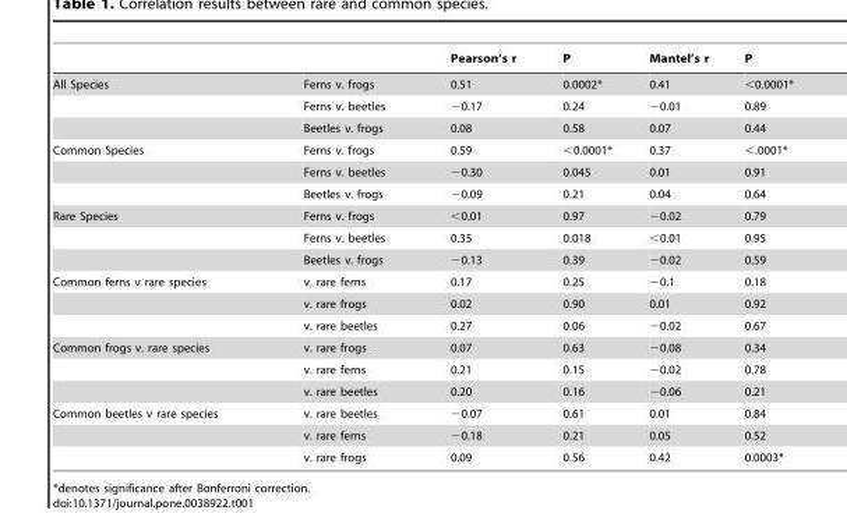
<table><thead><tr><td></td><td></td><td>Pearson’s r</td><td>P</td><td>Mantel’s r</td><td>P</td></tr></thead><tbody><tr><td rowspan="3">All Species</td><td>Ferns v. frogs</td><td>0.51</td><td>0.0002*</td><td>0.41</td><td>&lt;0.0001*</td></tr><tr><td>Ferns v. beetles</td><td>−0.17</td><td>0.24</td><td>−0.01</td><td>0.89</td></tr><tr><td>Beetles v. frogs</td><td>0.08</td><td>0.58</td><td>0.07</td><td>0.44</td></tr><tr><td rowspan="3">Common Species</td><td>Ferns v. frogs</td><td>0.59</td><td>&lt;0.0001*</td><td>0.37</td><td>&lt;.0001*</td></tr><tr><td>Ferns v. beetles</td><td>−0.30</td><td>0.045</td><td>0.01</td><td>0.91</td></tr><tr><td>Beetles v. frogs</td><td>−0.09</td><td>0.21</td><td>0.04</td><td>0.64</td></tr><tr><td rowspan="3">Rare Species</td><td>Ferns v. frogs</td><td>&lt;0.01</td><td>0.97</td><td>−0.02</td><td>0.79</td></tr><tr><td>Ferns v. beetles</td><td>0.35</td><td>0.018</td><td>&lt;0.01</td><td>0.95</td></tr><tr><td>Beetles v. frogs</td><td>−0.13</td><td>0.39</td><td>−0.02</td><td>0.59</td></tr><tr><td rowspan="3">Common ferns v rare species</td><td>v. rare ferns</td><td>0.17</td><td>0.25</td><td>−0.1</td><td>0.18</td></tr><tr><td>v. rare frogs</td><td>0.02</td><td>0.90</td><td>0.01</td><td>0.92</td></tr><tr><td>v. rare beetles</td><td>0.27</td><td>0.06</td><td>−0.02</td><td>0.67</td></tr><tr><td rowspan="3">Common frogs v. rare species</td><td>v. rare frogs</td><td>0.07</td><td>0.63</td><td>−0.08</td><td>0.34</td></tr><tr><td>v. rare ferns</td><td>0.21</td><td>0.15</td><td>−0.02</td><td>0.78</td></tr><tr><td>v. rare beetles</td><td>0.20</td><td>0.16</td><td>−0.06</td><td>0.21</td></tr><tr><td rowspan="3">Common beetles v rare species</td><td>v. rare beetles</td><td>−0.07</td><td>0.61</td><td>0.01</td><td>0.84</td></tr><tr><td>v. rare ferns</td><td>−0.18</td><td>0.21</td><td>0.05</td><td>0.52</td></tr><tr><td>v. rare frogs</td><td>0.09</td><td>0.56</td><td>0.42</td><td>0.0003*</td></tr></tbody></table>